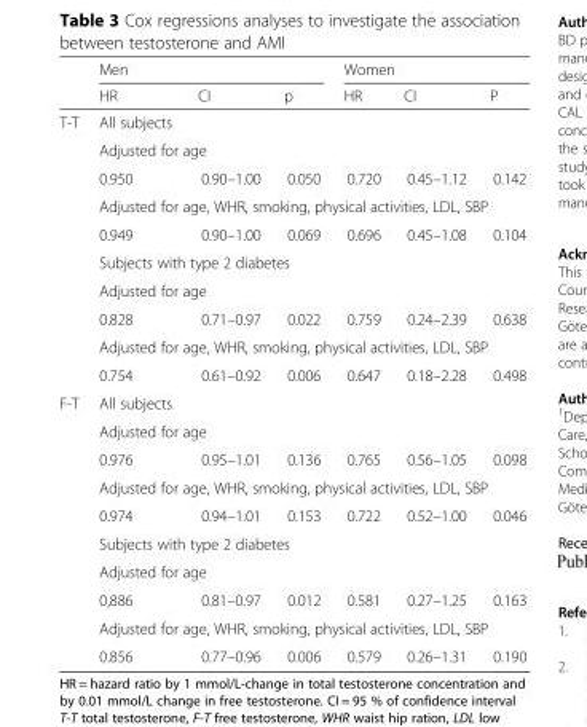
<table><thead><tr><td rowspan="2"></td><td colspan="3">Men</td><td colspan="3">Women</td></tr><tr><td>HR</td><td>CI</td><td>p</td><td>HR</td><td>CI</td><td>P</td></tr></thead><tbody><tr><td rowspan="10">T-T</td><td>All subjects</td><td></td><td></td><td></td><td></td><td></td></tr><tr><td colspan="6">Adjusted for age</td></tr><tr><td>0.950</td><td>0.90–1.00</td><td>0.050</td><td>0.720</td><td>0.45–1.12</td><td>0.142</td></tr><tr><td colspan="6">Adjusted for age, WHR, smoking, physical activities, LDL, SBP</td></tr><tr><td>0.949</td><td>0.90–1.00</td><td>0.069</td><td>0.696</td><td>0.45–1.08</td><td>0.104</td></tr><tr><td colspan="6">Subjects with type 2 diabetes</td></tr><tr><td colspan="6">Adjusted for age</td></tr><tr><td>0.828</td><td>0.71–0.97</td><td>0.022</td><td>0.759</td><td>0.24–2.39</td><td>0.638</td></tr><tr><td colspan="6">Adjusted for age, WHR, smoking, physical activities, LDL, SBP</td></tr><tr><td>0.754</td><td>0.61–0.92</td><td>0.006</td><td>0.647</td><td>0.18–2.28</td><td>0.498</td></tr><tr><td rowspan="10">F-T</td><td>All subjects</td><td></td><td></td><td></td><td></td><td></td></tr><tr><td colspan="6">Adjusted for age</td></tr><tr><td>0.976</td><td>0.95–1.01</td><td>0.136</td><td>0.765</td><td>0.56–1.05</td><td>0.098</td></tr><tr><td colspan="6">Adjusted for age, WHR, smoking, physical activities, LDL, SBP</td></tr><tr><td>0.974</td><td>0.94–1.01</td><td>0.153</td><td>0.722</td><td>0.52–1.00</td><td>0.046</td></tr><tr><td colspan="6">Subjects with type 2 diabetes</td></tr><tr><td colspan="6">Adjusted for age</td></tr><tr><td>0,886</td><td>0.81–0.97</td><td>0.012</td><td>0.581</td><td>0.27–1.25</td><td>0.163</td></tr><tr><td colspan="6">Adjusted for age, WHR, smoking, physical activities, LDL, SBP</td></tr><tr><td>0.856</td><td>0.77–0.96</td><td>0.006</td><td>0.579</td><td>0.26–1.31</td><td>0.190</td></tr></tbody></table>